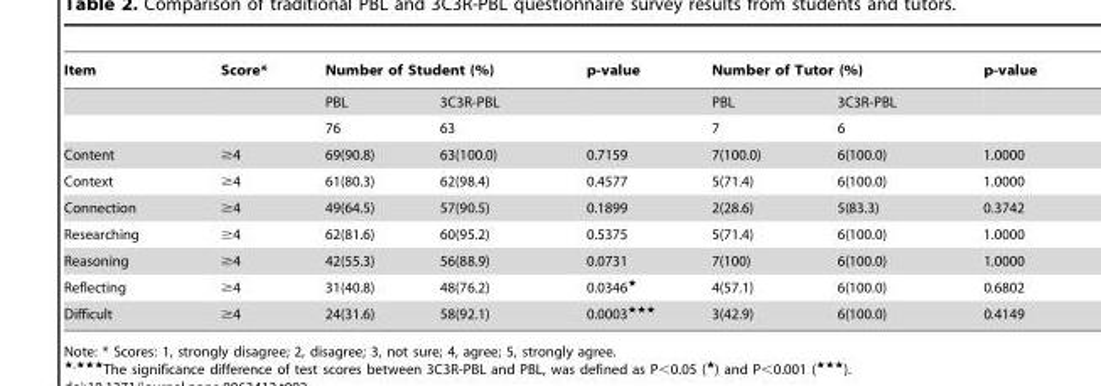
<table><thead><tr><td rowspan="2">Item</td><td rowspan="2">Score*</td><td colspan="2">Number of Student (%)</td><td rowspan="2">p-value</td><td colspan="2">Number of Tutor (%)</td><td rowspan="2">p-value</td></tr><tr><td>PBL</td><td>3C3R-PBL</td><td>PBL</td><td>3C3R-PBL</td></tr></thead><tbody><tr><td></td><td></td><td>76</td><td>63</td><td></td><td>7</td><td>6</td><td></td></tr><tr><td>Content</td><td>≥4</td><td>69(90.8)</td><td>63(100.0)</td><td>0.7159</td><td>7(100.0)</td><td>6(100.0)</td><td>1.0000</td></tr><tr><td>Context</td><td>≥4</td><td>61(80.3)</td><td>62(98.4)</td><td>0.4577</td><td>5(71.4)</td><td>6(100.0)</td><td>1.0000</td></tr><tr><td>Connection</td><td>≥4</td><td>49(64.5)</td><td>57(90.5)</td><td>0.1899</td><td>2(28.6)</td><td>5(83.3)</td><td>0.3742</td></tr><tr><td>Researching</td><td>≥4</td><td>62(81.6)</td><td>60(95.2)</td><td>0.5375</td><td>5(71.4)</td><td>6(100.0)</td><td>1.0000</td></tr><tr><td>Reasoning</td><td>≥4</td><td>42(55.3)</td><td>56(88.9)</td><td>0.0731</td><td>7(100)</td><td>6(100.0)</td><td>1.0000</td></tr><tr><td>Reflecting</td><td>≥4</td><td>31(40.8)</td><td>48(76.2)</td><td>0.0346<sup>★</sup></td><td>4(57.1)</td><td>6(100.0)</td><td>0.6802</td></tr><tr><td>Difficult</td><td>≥4</td><td>24(31.6)</td><td>58(92.1)</td><td>0.0003<sup>★★★</sup></td><td>3(42.9)</td><td>6(100.0)</td><td>0.4149</td></tr></tbody></table>